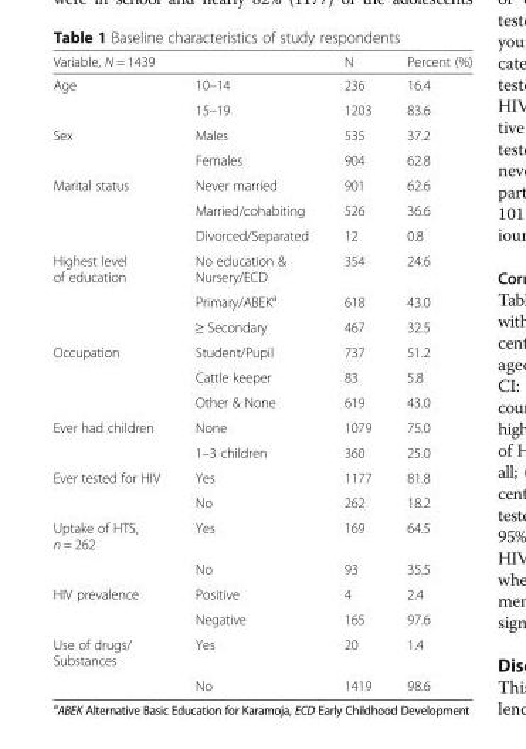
<table><thead><tr><td>Variable, N = 1439</td><td></td><td>N</td><td>Percent (%)</td></tr></thead><tbody><tr><td rowspan="2">Age</td><td>10–14</td><td>236</td><td>16.4</td></tr><tr><td>15–19</td><td>1203</td><td>83.6</td></tr><tr><td rowspan="2">Sex</td><td>Males</td><td>535</td><td>37.2</td></tr><tr><td>Females</td><td>904</td><td>62.8</td></tr><tr><td rowspan="3">Marital status</td><td>Never married</td><td>901</td><td>62.6</td></tr><tr><td>Married/cohabiting</td><td>526</td><td>36.6</td></tr><tr><td>Divorced/Separated</td><td>12</td><td>0.8</td></tr><tr><td rowspan="3">Highest level of education</td><td>No education &amp; Nursery/ECD</td><td>354</td><td>24.6</td></tr><tr><td>Primary/ABEK<sup>a</sup></td><td>618</td><td>43.0</td></tr><tr><td>≥ Secondary</td><td>467</td><td>32.5</td></tr><tr><td rowspan="3">Occupation</td><td>Student/Pupil</td><td>737</td><td>51.2</td></tr><tr><td>Cattle keeper</td><td>83</td><td>5.8</td></tr><tr><td>Other &amp; None</td><td>619</td><td>43.0</td></tr><tr><td rowspan="2">Ever had children</td><td>None</td><td>1079</td><td>75.0</td></tr><tr><td>1–3 children</td><td>360</td><td>25.0</td></tr><tr><td rowspan="2">Ever tested for HIV</td><td>Yes</td><td>1177</td><td>81.8</td></tr><tr><td>No</td><td>262</td><td>18.2</td></tr><tr><td rowspan="2">Uptake of HTS, n = 262</td><td>Yes</td><td>169</td><td>64.5</td></tr><tr><td>No</td><td>93</td><td>35.5</td></tr><tr><td rowspan="2">HIV prevalence</td><td>Positive</td><td>4</td><td>2.4</td></tr><tr><td>Negative</td><td>165</td><td>97.6</td></tr><tr><td rowspan="2">Use of drugs/ Substances</td><td>Yes</td><td>20</td><td>1.4</td></tr><tr><td>No</td><td>1419</td><td>98.6</td></tr></tbody></table>